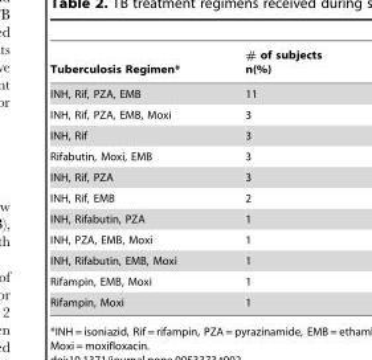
<table><thead><tr><td>Tuberculosis Regimen*</td><td># of subjects n(%)</td></tr></thead><tbody><tr><td>INH, Rif, PZA, EMB</td><td>11</td></tr><tr><td>INH, Rif, PZA, EMB, Moxi</td><td>3</td></tr><tr><td>INH, Rif</td><td>3</td></tr><tr><td>Rifabutin, Moxi, EMB</td><td>3</td></tr><tr><td>INH, Rif, PZA</td><td>3</td></tr><tr><td>INH, Rif, EMB</td><td>2</td></tr><tr><td>INH, Rifabutin, PZA</td><td>1</td></tr><tr><td>INH, PZA, EMB, Moxi</td><td>1</td></tr><tr><td>INH, Rifabutin, EMB, Moxi</td><td>1</td></tr><tr><td>Rifampin, EMB, Moxi</td><td>1</td></tr><tr><td>Rifampin, Moxi</td><td>1</td></tr></tbody></table>